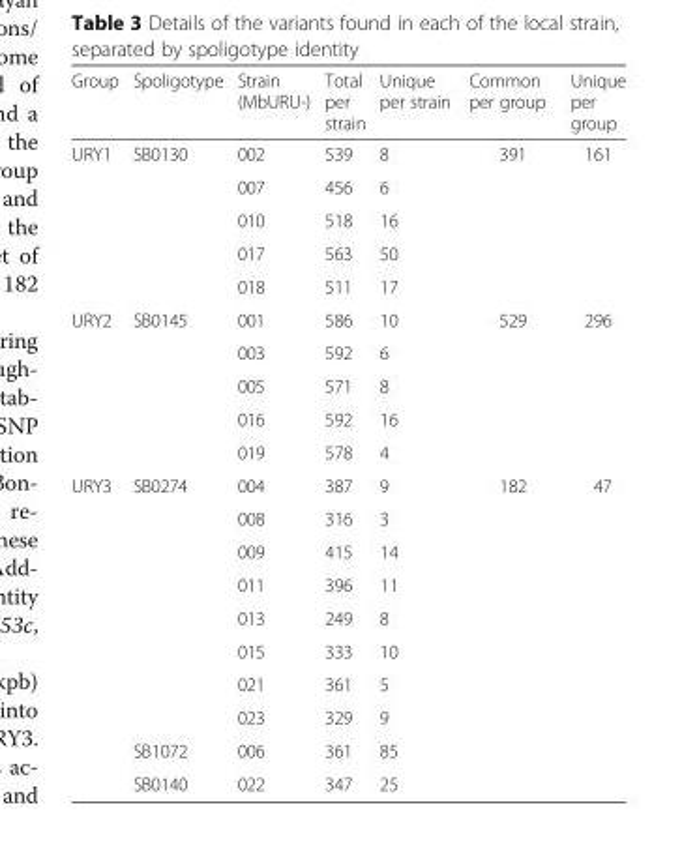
<table><thead><tr><td>Group</td><td>Spoligotype</td><td>Strain (MbURU-)</td><td>Total per strain</td><td>Unique per strain</td><td>Common per group</td><td>Unique per group</td></tr></thead><tbody><tr><td rowspan="5">URY1</td><td rowspan="5">SB0130</td><td>002</td><td>539</td><td>8</td><td rowspan="5">391</td><td rowspan="5">161</td></tr><tr><td>007</td><td>456</td><td>6</td></tr><tr><td>010</td><td>518</td><td>16</td></tr><tr><td>017</td><td>563</td><td>50</td></tr><tr><td>018</td><td>511</td><td>17</td></tr><tr><td rowspan="5">URY2</td><td rowspan="5">SB0145</td><td>001</td><td>586</td><td>10</td><td rowspan="5">529</td><td rowspan="5">296</td></tr><tr><td>003</td><td>592</td><td>6</td></tr><tr><td>005</td><td>571</td><td>8</td></tr><tr><td>016</td><td>592</td><td>16</td></tr><tr><td>019</td><td>578</td><td>4</td></tr><tr><td rowspan="10">URY3</td><td rowspan="8">SB0274</td><td>004</td><td>387</td><td>9</td><td rowspan="10">182</td><td rowspan="10">47</td></tr><tr><td>008</td><td>316</td><td>3</td></tr><tr><td>009</td><td>415</td><td>14</td></tr><tr><td>011</td><td>396</td><td>11</td></tr><tr><td>013</td><td>249</td><td>8</td></tr><tr><td>015</td><td>333</td><td>10</td></tr><tr><td>021</td><td>361</td><td>5</td></tr><tr><td>023</td><td>329</td><td>9</td></tr><tr><td>SB1072</td><td>006</td><td>361</td><td>85</td></tr><tr><td>SB0140</td><td>022</td><td>347</td><td>25</td></tr></tbody></table>